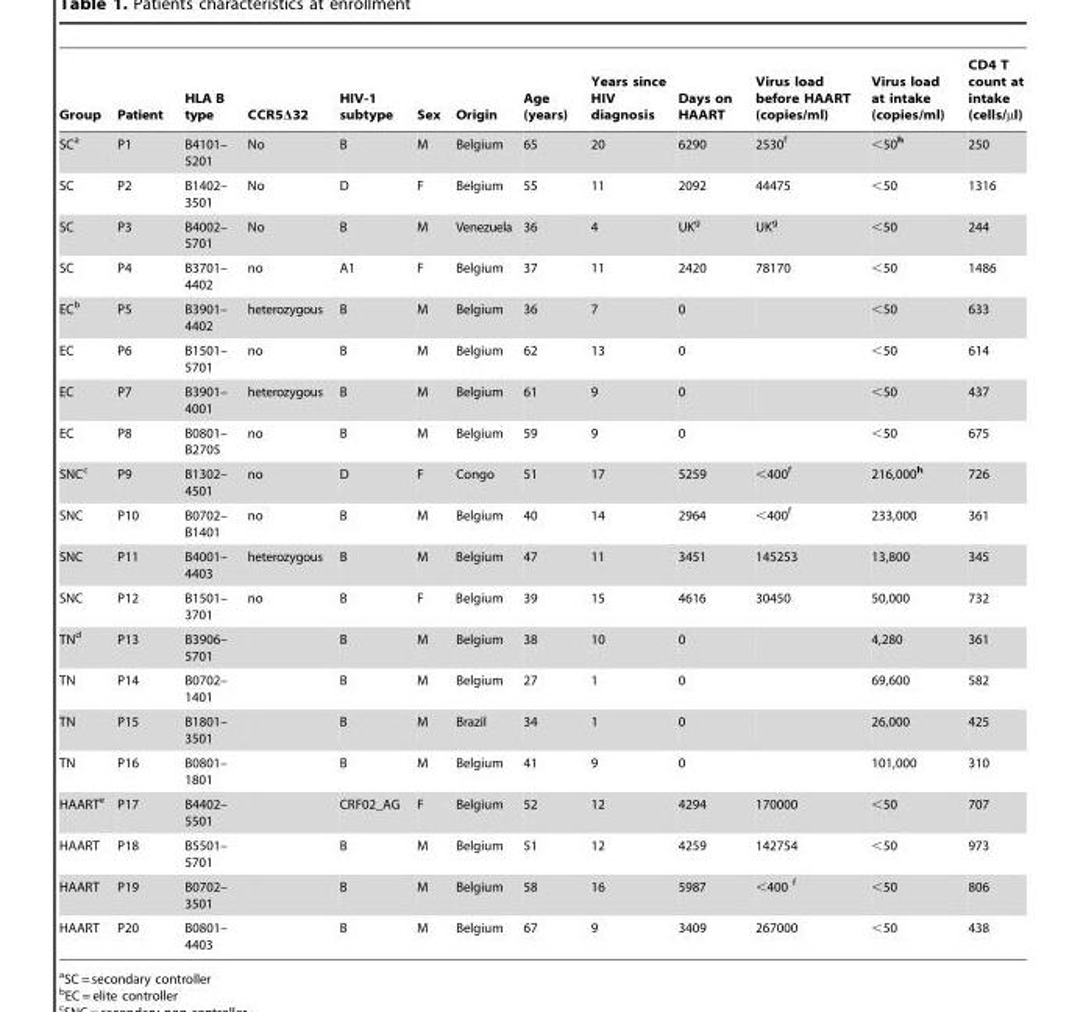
<table><thead><tr><td>Group</td><td>Patient</td><td>HLA B type</td><td>CCR5Δ32</td><td>HIV-1 subtype</td><td>Sex</td><td>Origin</td><td>Age (years)</td><td>Years since HIV diagnosis</td><td>Days on HAART</td><td>Virus load before HAART (copies/ml)</td><td>Virus load at intake (copies/ml)</td><td>CD4 T count at intake (cells/µl)</td></tr></thead><tbody><tr><td>SC<sup>a</sup></td><td>P1</td><td>B4101– 5201</td><td>No</td><td>B</td><td>M</td><td>Belgium</td><td>65</td><td>20</td><td>6290</td><td>2530<sup>f</sup></td><td>&lt;50<sup>h</sup></td><td>250</td></tr><tr><td>SC</td><td>P2</td><td>B1402– 3501</td><td>No</td><td>D</td><td>F</td><td>Belgium</td><td>55</td><td>11</td><td>2092</td><td>44475</td><td>&lt;50</td><td>1316</td></tr><tr><td>SC</td><td>P3</td><td>B4002– 5701</td><td>No</td><td>B</td><td>M</td><td>Venezuela</td><td>36</td><td>4</td><td>UK<sup>g</sup></td><td>UK<sup>g</sup></td><td>&lt;50</td><td>244</td></tr><tr><td>SC</td><td>P4</td><td>B3701– 4402</td><td>no</td><td>A1</td><td>F</td><td>Belgium</td><td>37</td><td>11</td><td>2420</td><td>78170</td><td>&lt;50</td><td>1486</td></tr><tr><td>EC<sup>b</sup></td><td>P5</td><td>B3901– 4402</td><td>heterozygous</td><td>B</td><td>M</td><td>Belgium</td><td>36</td><td>7</td><td>0</td><td></td><td>&lt;50</td><td>633</td></tr><tr><td>EC</td><td>P6</td><td>B1501– 5701</td><td>no</td><td>B</td><td>M</td><td>Belgium</td><td>62</td><td>13</td><td>0</td><td></td><td>&lt;50</td><td>614</td></tr><tr><td>EC</td><td>P7</td><td>B3901– 4001</td><td>heterozygous</td><td>B</td><td>M</td><td>Belgium</td><td>61</td><td>9</td><td>0</td><td></td><td>&lt;50</td><td>437</td></tr><tr><td>EC</td><td>P8</td><td>B0801– B2705</td><td>no</td><td>B</td><td>M</td><td>Belgium</td><td>59</td><td>9</td><td>0</td><td></td><td>&lt;50</td><td>675</td></tr><tr><td>SNC<sup>c</sup></td><td>P9</td><td>B1302– 4501</td><td>no</td><td>D</td><td>F</td><td>Congo</td><td>51</td><td>17</td><td>5259</td><td>&lt;400<sup>f</sup></td><td>216,000<sup>h</sup></td><td>726</td></tr><tr><td>SNC</td><td>P10</td><td>B0702– B1401</td><td>no</td><td>B</td><td>M</td><td>Belgium</td><td>40</td><td>14</td><td>2964</td><td>&lt;400<sup>f</sup></td><td>233,000</td><td>361</td></tr><tr><td>SNC</td><td>P11</td><td>B4001– 4403</td><td>heterozygous</td><td>B</td><td>M</td><td>Belgium</td><td>47</td><td>11</td><td>3451</td><td>145253</td><td>13,800</td><td>345</td></tr><tr><td>SNC</td><td>P12</td><td>B1501– 3701</td><td>no</td><td>B</td><td>F</td><td>Belgium</td><td>39</td><td>15</td><td>4616</td><td>30450</td><td>50,000</td><td>732</td></tr><tr><td>TN<sup>d</sup></td><td>P13</td><td>B3906– 5701</td><td></td><td>B</td><td>M</td><td>Belgium</td><td>38</td><td>10</td><td>0</td><td></td><td>4,280</td><td>361</td></tr><tr><td>TN</td><td>P14</td><td>B0702– 1401</td><td></td><td>B</td><td>M</td><td>Belgium</td><td>27</td><td>1</td><td>0</td><td></td><td>69,600</td><td>582</td></tr><tr><td>TN</td><td>P15</td><td>B1801– 3501</td><td></td><td>B</td><td>M</td><td>Brazil</td><td>34</td><td>1</td><td>0</td><td></td><td>26,000</td><td>425</td></tr><tr><td>TN</td><td>P16</td><td>B0801– 1801</td><td></td><td>B</td><td>M</td><td>Belgium</td><td>41</td><td>9</td><td>0</td><td></td><td>101,000</td><td>310</td></tr><tr><td>HAART<sup>e</sup></td><td>P17</td><td>B4402– 5501</td><td></td><td>CRF02_AG</td><td>F</td><td>Belgium</td><td>52</td><td>12</td><td>4294</td><td>170000</td><td>&lt;50</td><td>707</td></tr><tr><td>HAART</td><td>P18</td><td>B5501– 5701</td><td></td><td>B</td><td>M</td><td>Belgium</td><td>51</td><td>12</td><td>4259</td><td>142754</td><td>&lt;50</td><td>973</td></tr><tr><td>HAART</td><td>P19</td><td>B0702– 3501</td><td></td><td>B</td><td>M</td><td>Belgium</td><td>58</td><td>16</td><td>5987</td><td>&lt;400 f</td><td>&lt;50</td><td>806</td></tr><tr><td>HAART</td><td>P20</td><td>B0801– 4403</td><td></td><td>B</td><td>M</td><td>Belgium</td><td>67</td><td>9</td><td>3409</td><td>267000</td><td>&lt;50</td><td>438</td></tr></tbody></table>